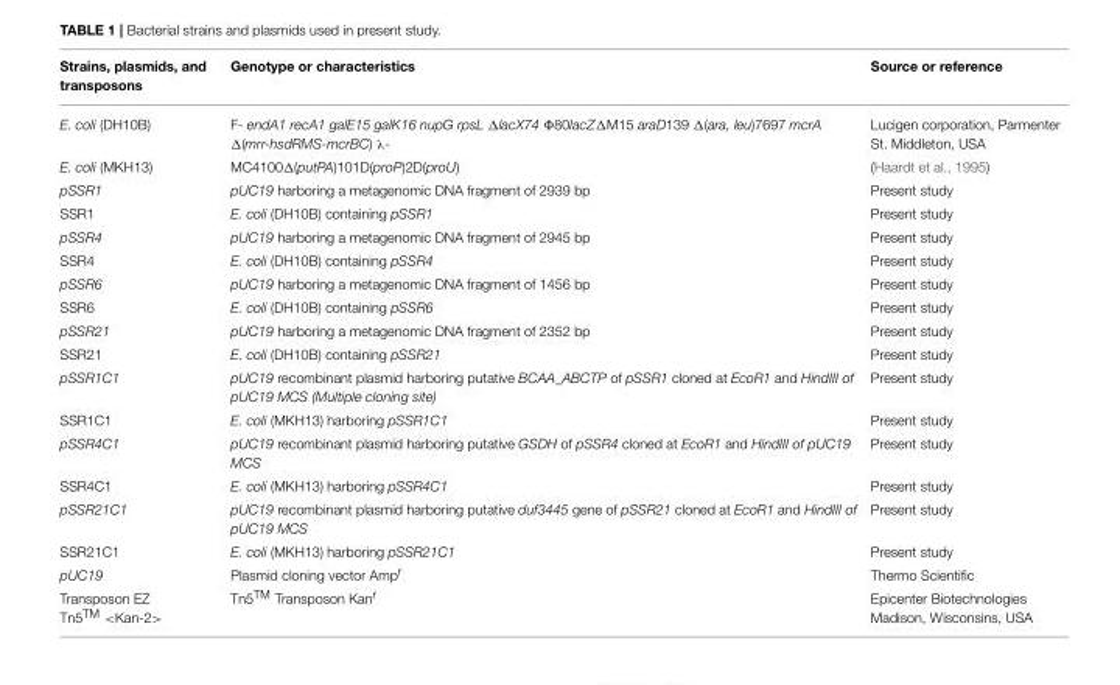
<table><thead><tr><td>Strains, plasmids, and transposons</td><td>Genotype or characteristics</td><td>Source or reference</td></tr></thead><tbody><tr><td>E. coli (DH10B)</td><td>F- endA1 recA1 galE15 galK16 nupG rpsL ΔlacX74 Φ80lacZΔM15 araD139 Δ(ara, leu)7697 mcrA Δ(mrr-hsdRMS-mcrBC) λ-</td><td>Lucigen corporation, Parmenter St. Middleton, USA</td></tr><tr><td>E. coli (MKH13)</td><td>MC4100Δ(putPA)101D(proP)2D(proU)</td><td>(Haardt et al., 1995)</td></tr><tr><td>pSSR1</td><td>pUC19 harboring a metagenomic DNA fragment of 2939 bp</td><td>Present study</td></tr><tr><td>SSR1</td><td>E. coli (DH10B) containing pSSR1</td><td>Present study</td></tr><tr><td>pSSR4</td><td>pUC19 harboring a metagenomic DNA fragment of 2945 bp</td><td>Present study</td></tr><tr><td>SSR4</td><td>E. coli (DH10B) containing pSSR4</td><td>Present study</td></tr><tr><td>pSSR6</td><td>pUC19 harboring a metagenomic DNA fragment of 1456 bp</td><td>Present study</td></tr><tr><td>SSR6</td><td>E. coli (DH10B) containing pSSR6</td><td>Present study</td></tr><tr><td>pSSR21</td><td>pUC19 harboring a metagenomic DNA fragment of 2352 bp</td><td>Present study</td></tr><tr><td>SSR21</td><td>E. coli (DH10B) containing pSSR21</td><td>Present study</td></tr><tr><td>pSSR1C1</td><td>pUC19 recombinant plasmid harboring putative BCAA_ABCTP of pSSR1 cloned at EcoR1 and HindIII of pUC19 MCS (Multiple cloning site)</td><td>Present study</td></tr><tr><td>SSR1C1</td><td>E. coli (MKH13) harboring pSSR1C1</td><td>Present study</td></tr><tr><td>pSSR4C1</td><td>pUC19 recombinant plasmid harboring putative GSDH of pSSR4 cloned at EcoR1 and HindIII of pUC19 MCS</td><td>Present study</td></tr><tr><td>SSR4C1</td><td>E. coli (MKH13) harboring pSSR4C1</td><td>Present study</td></tr><tr><td>pSSR21C1</td><td>pUC19 recombinant plasmid harboring putative duf3445 gene of pSSR21 cloned at EcoR1 and HindIII of pUC19 MCS</td><td>Present study</td></tr><tr><td>SSR21C1</td><td>E. coli (MKH13) harboring pSSR21C1</td><td>Present study</td></tr><tr><td>pUC19</td><td>Plasmid cloning vector Amp<sup>r</sup></td><td>Thermo Scientific</td></tr><tr><td>Transposon EZ Tn5<sup>TM</sup> &lt;Kan-2&gt;</td><td>Tn5<sup>TM</sup> Transposon Kan<sup>r</sup></td><td>Epicenter Biotechnologies Madison, Wisconsins, USA</td></tr></tbody></table>